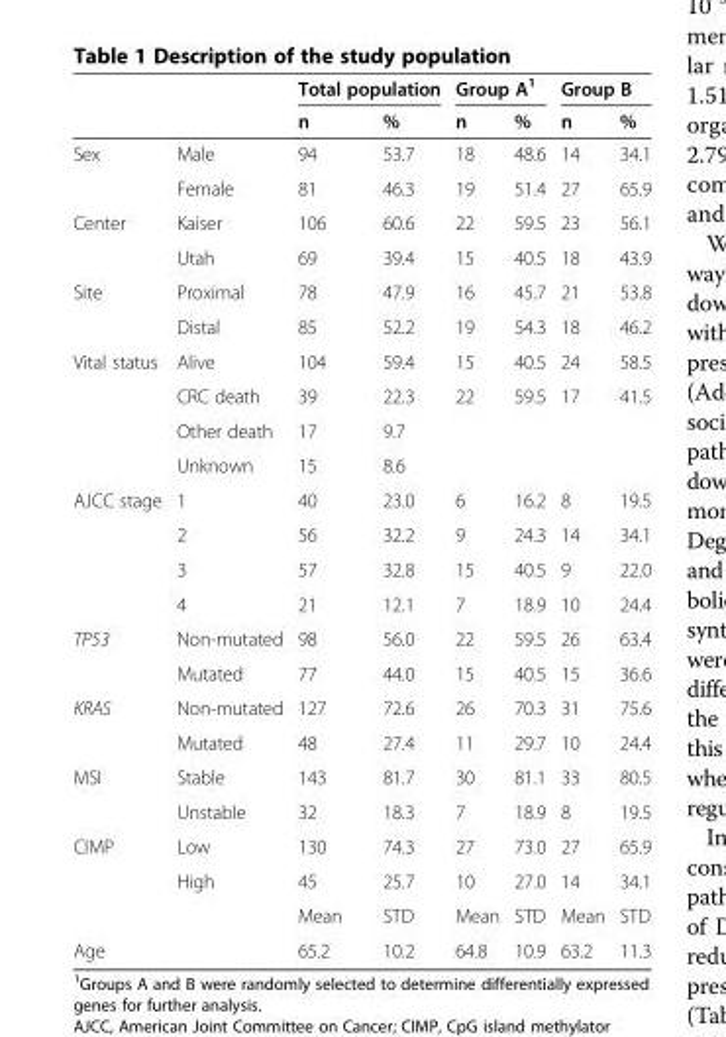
<table><thead><tr><td rowspan="2"></td><td rowspan="2"></td><td colspan="2">Total population</td><td colspan="2">Group A<sup>1</sup></td><td colspan="2">Group B</td></tr><tr><td>n</td><td>%</td><td>n</td><td>%</td><td>n</td><td>%</td></tr></thead><tbody><tr><td rowspan="2">Sex</td><td>Male</td><td>94</td><td>53.7</td><td>18</td><td>48.6</td><td>14</td><td>34.1</td></tr><tr><td>Female</td><td>81</td><td>46.3</td><td>19</td><td>51.4</td><td>27</td><td>65.9</td></tr><tr><td rowspan="2">Center</td><td>Kaiser</td><td>106</td><td>60.6</td><td>22</td><td>59.5</td><td>23</td><td>56.1</td></tr><tr><td>Utah</td><td>69</td><td>39.4</td><td>15</td><td>40.5</td><td>18</td><td>43.9</td></tr><tr><td rowspan="2">Site</td><td>Proximal</td><td>78</td><td>47.9</td><td>16</td><td>45.7</td><td>21</td><td>53.8</td></tr><tr><td>Distal</td><td>85</td><td>52.2</td><td>19</td><td>54.3</td><td>18</td><td>46.2</td></tr><tr><td rowspan="4">Vital status</td><td>Alive</td><td>104</td><td>59.4</td><td>15</td><td>40.5</td><td>24</td><td>58.5</td></tr><tr><td>CRC death</td><td>39</td><td>22.3</td><td>22</td><td>59.5</td><td>17</td><td>41.5</td></tr><tr><td>Other death</td><td>17</td><td>9.7</td><td></td><td></td><td></td><td></td></tr><tr><td>Unknown</td><td>15</td><td>8.6</td><td></td><td></td><td></td><td></td></tr><tr><td rowspan="4">AJCC stage</td><td>1</td><td>40</td><td>23.0</td><td>6</td><td>16.2</td><td>8</td><td>19.5</td></tr><tr><td>2</td><td>56</td><td>32.2</td><td>9</td><td>24.3</td><td>14</td><td>34.1</td></tr><tr><td>3</td><td>57</td><td>32.8</td><td>15</td><td>40.5</td><td>9</td><td>22.0</td></tr><tr><td>4</td><td>21</td><td>12.1</td><td>7</td><td>18.9</td><td>10</td><td>24.4</td></tr><tr><td rowspan="2">TP53</td><td>Non-mutated</td><td>98</td><td>56.0</td><td>22</td><td>59.5</td><td>26</td><td>63.4</td></tr><tr><td>Mutated</td><td>77</td><td>44.0</td><td>15</td><td>40.5</td><td>15</td><td>36.6</td></tr><tr><td rowspan="2">KRAS</td><td>Non-mutated</td><td>127</td><td>72.6</td><td>26</td><td>70.3</td><td>31</td><td>75.6</td></tr><tr><td>Mutated</td><td>48</td><td>27.4</td><td>11</td><td>29.7</td><td>10</td><td>24.4</td></tr><tr><td rowspan="2">MSI</td><td>Stable</td><td>143</td><td>81.7</td><td>30</td><td>81.1</td><td>33</td><td>80.5</td></tr><tr><td>Unstable</td><td>32</td><td>18.3</td><td>7</td><td>18.9</td><td>8</td><td>19.5</td></tr><tr><td rowspan="3">CIMP</td><td>Low</td><td>130</td><td>74.3</td><td>27</td><td>73.0</td><td>27</td><td>65.9</td></tr><tr><td>High</td><td>45</td><td>25.7</td><td>10</td><td>27.0</td><td>14</td><td>34.1</td></tr><tr><td></td><td>Mean</td><td>STD</td><td>Mean</td><td>STD</td><td>Mean</td><td>STD</td></tr><tr><td>Age</td><td></td><td>65.2</td><td>10.2</td><td>64.8</td><td>10.9</td><td>63.2</td><td>11.3</td></tr></tbody></table>